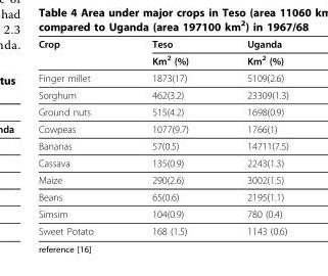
<table><thead><tr><td rowspan="2">Crop</td><td rowspan="2">Teso Km<sup>2</sup> (%)</td><td rowspan="2">Uganda Km<sup>2</sup> (%)</td></tr><tr></tr></thead><tbody><tr><td>Finger millet</td><td>1873(17)</td><td>5109(2.6)</td></tr><tr><td>Sorghum</td><td>462(3.2)</td><td>23309(1.3)</td></tr><tr><td>Ground nuts</td><td>515(4.2)</td><td>1698(0.9)</td></tr><tr><td>Cowpeas</td><td>1077(9.7)</td><td>1766(1)</td></tr><tr><td>Bananas</td><td>57(0.5)</td><td>14711(7.5)</td></tr><tr><td>Cassava</td><td>135(0.9)</td><td>2243(1.3)</td></tr><tr><td>Maize</td><td>290(2.6)</td><td>3002(1.5)</td></tr><tr><td>Beans</td><td>65(0.6)</td><td>2195(1.1)</td></tr><tr><td>Simsim</td><td>104(0.9)</td><td>780 (0.4)</td></tr><tr><td>Sweet Potato</td><td>168 (1.5)</td><td>1143 (0.6)</td></tr></tbody></table>